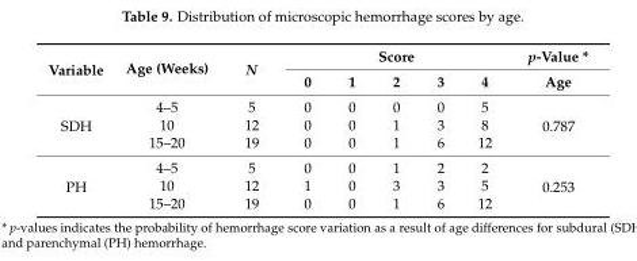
<table><thead><tr><td rowspan="2">Variable</td><td rowspan="2">Age (Weeks)</td><td rowspan="2">N</td><td colspan="5">Score</td><td rowspan="2">p-Value * Age</td></tr><tr><td>0</td><td>1</td><td>2</td><td>3</td><td>4</td></tr></thead><tbody><tr><td rowspan="3">SDH</td><td>4–5</td><td>5</td><td>0</td><td>0</td><td>0</td><td>0</td><td>5</td><td rowspan="3">0.787</td></tr><tr><td>10</td><td>12</td><td>0</td><td>0</td><td>1</td><td>3</td><td>8</td></tr><tr><td>15–20</td><td>19</td><td>0</td><td>0</td><td>1</td><td>6</td><td>12</td></tr><tr><td rowspan="3">PH</td><td>4–5</td><td>5</td><td>0</td><td>0</td><td>1</td><td>2</td><td>2</td><td rowspan="3">0.253</td></tr><tr><td>10</td><td>12</td><td>1</td><td>0</td><td>3</td><td>3</td><td>5</td></tr><tr><td>15–20</td><td>19</td><td>0</td><td>0</td><td>1</td><td>6</td><td>12</td></tr></tbody></table>